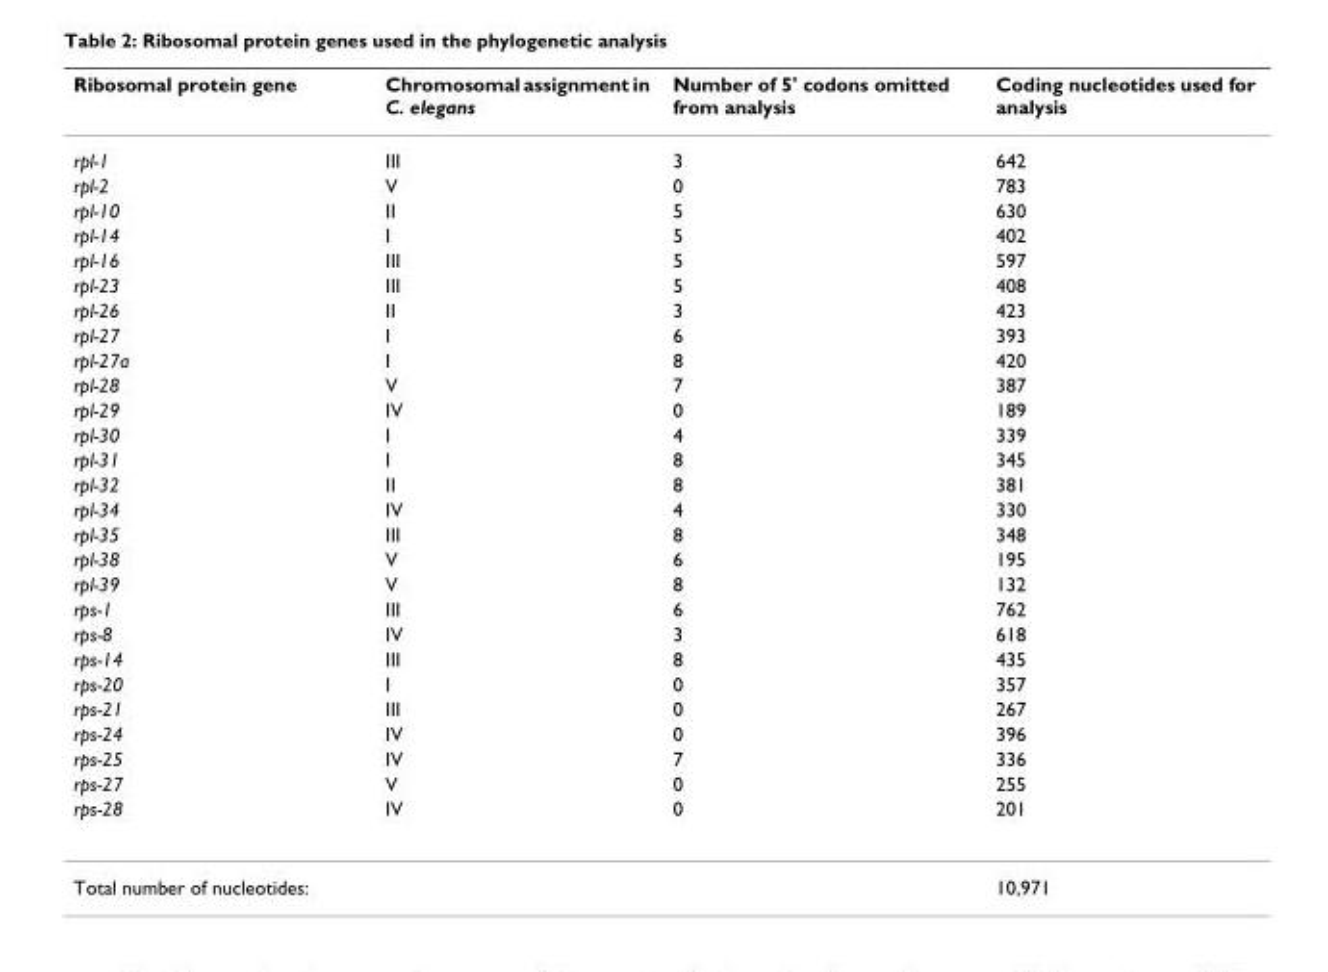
<table><thead><tr><td>Ribosomal protein gene</td><td>Chromosomal assignment in C. elegans</td><td>Number of 5&#x27; codons omitted from analysis</td><td>Coding nucleotides used for analysis</td></tr></thead><tbody><tr><td>rpl-1</td><td>III</td><td>3</td><td>642</td></tr><tr><td>rpl-2</td><td>V</td><td>0</td><td>783</td></tr><tr><td>rpl-10</td><td>II</td><td>5</td><td>630</td></tr><tr><td>rpl-14</td><td>I</td><td>5</td><td>402</td></tr><tr><td>rpl-16</td><td>III</td><td>5</td><td>597</td></tr><tr><td>rpl-23</td><td>III</td><td>5</td><td>408</td></tr><tr><td>rpl-26</td><td>II</td><td>3</td><td>423</td></tr><tr><td>rpl-27</td><td>I</td><td>6</td><td>393</td></tr><tr><td>rpl-27a</td><td>I</td><td>8</td><td>420</td></tr><tr><td>rpl-28</td><td>V</td><td>7</td><td>387</td></tr><tr><td>rpl-29</td><td>IV</td><td>0</td><td>189</td></tr><tr><td>rpl-30</td><td>I</td><td>4</td><td>339</td></tr><tr><td>rpl-31</td><td>I</td><td>8</td><td>345</td></tr><tr><td>rpl-32</td><td>II</td><td>8</td><td>381</td></tr><tr><td>rpl-34</td><td>IV</td><td>4</td><td>330</td></tr><tr><td>rpl-35</td><td>III</td><td>8</td><td>348</td></tr><tr><td>rpl-38</td><td>V</td><td>6</td><td>195</td></tr><tr><td>rpl-39</td><td>V</td><td>8</td><td>132</td></tr><tr><td>rps-1</td><td>III</td><td>6</td><td>762</td></tr><tr><td>rps-8</td><td>IV</td><td>3</td><td>618</td></tr><tr><td>rps-14</td><td>III</td><td>8</td><td>435</td></tr><tr><td>rps-20</td><td>I</td><td>0</td><td>357</td></tr><tr><td>rps-21</td><td>III</td><td>0</td><td>267</td></tr><tr><td>rps-24</td><td>IV</td><td>0</td><td>396</td></tr><tr><td>rps-25</td><td>IV</td><td>7</td><td>336</td></tr><tr><td>rps-27</td><td>V</td><td>0</td><td>255</td></tr><tr><td>rps-28</td><td>IV</td><td>0</td><td>201</td></tr><tr><td>Total number of nucleotides:</td><td></td><td></td><td>10,971</td></tr></tbody></table>